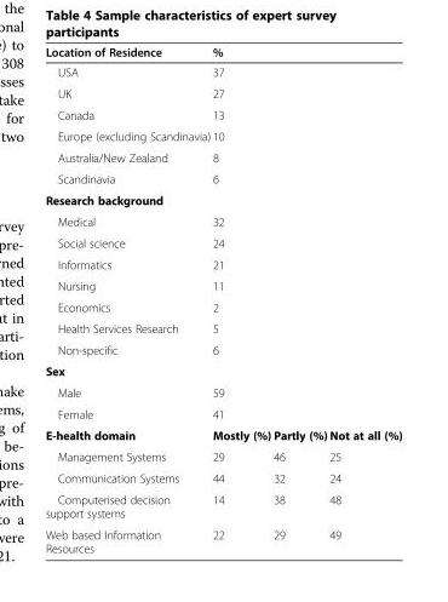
<table><thead><tr><td>Location of Residence</td><td>%</td><td></td><td></td></tr></thead><tbody><tr><td>USA</td><td>37</td><td></td><td></td></tr><tr><td>UK</td><td>27</td><td></td><td></td></tr><tr><td>Canada</td><td>13</td><td></td><td></td></tr><tr><td>Europe (excluding Scandinavia)</td><td>10</td><td></td><td></td></tr><tr><td>Australia/New Zealand</td><td>8</td><td></td><td></td></tr><tr><td>Scandinavia</td><td>6</td><td></td><td></td></tr><tr><td colspan="4">Research background</td></tr><tr><td>Medical</td><td>32</td><td></td><td></td></tr><tr><td>Social science</td><td>24</td><td></td><td></td></tr><tr><td>Informatics</td><td>21</td><td></td><td></td></tr><tr><td>Nursing</td><td>11</td><td></td><td></td></tr><tr><td>Economics</td><td>2</td><td></td><td></td></tr><tr><td>Health Services Research</td><td>5</td><td></td><td></td></tr><tr><td>Non-specific</td><td>6</td><td></td><td></td></tr><tr><td colspan="4">Sex</td></tr><tr><td>Male</td><td>59</td><td></td><td></td></tr><tr><td>Female</td><td>41</td><td></td><td></td></tr><tr><td>E-health domain</td><td>Mostly (%)</td><td>Partly (%)</td><td>Not at all (%)</td></tr><tr><td>Management Systems</td><td>29</td><td>46</td><td>25</td></tr><tr><td>Communication Systems</td><td>44</td><td>32</td><td>24</td></tr><tr><td>Computerised decision support systems</td><td>14</td><td>38</td><td>48</td></tr><tr><td>Web based Information Resources</td><td>22</td><td>29</td><td>49</td></tr></tbody></table>